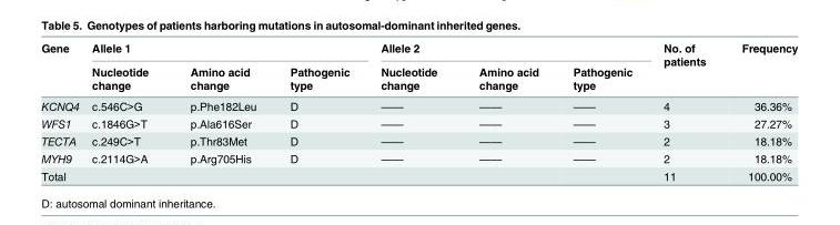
<table><thead><tr><td rowspan="2">Gene</td><td colspan="3">Allele 1</td><td colspan="3">Allele 2</td><td rowspan="2">No. of patients</td><td rowspan="2">Frequency</td></tr><tr><td>Nucleotide change</td><td>Amino acid change</td><td>Pathogenic type</td><td>Nucleotide change</td><td>Amino acid change</td><td>Pathogenic type</td></tr></thead><tbody><tr><td>KCNQ4</td><td>c.546C&gt;G</td><td>p.Phe182Leu</td><td>D</td><td>——</td><td>——</td><td>——</td><td>4</td><td>36.36%</td></tr><tr><td>WFS1</td><td>c.1846G&gt;T</td><td>p.Ala616Ser</td><td>D</td><td>——</td><td>——</td><td>——</td><td>3</td><td>27.27%</td></tr><tr><td>TECTA</td><td>c.249C&gt;T</td><td>p.Thr83Met</td><td>D</td><td>——</td><td>——</td><td>——</td><td>2</td><td>18.18%</td></tr><tr><td>MYH9</td><td>c.2114G&gt;A</td><td>p.Arg705His</td><td>D</td><td>——</td><td>——</td><td>——</td><td>2</td><td>18.18%</td></tr><tr><td>Total</td><td></td><td></td><td></td><td></td><td></td><td></td><td>11</td><td>100.00%</td></tr></tbody></table>